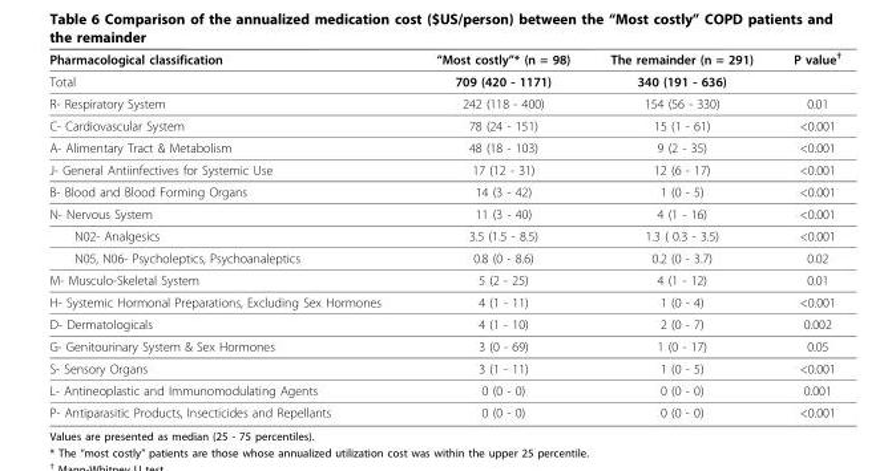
<table><thead><tr><td>Pharmacological classification</td><td>“Most costly”* (n = 98)</td><td>The remainder (n = 291)</td><td>P value<sup>†</sup></td></tr></thead><tbody><tr><td>Total</td><td>709 (420 - 1171)</td><td>340 (191 - 636)</td><td></td></tr><tr><td>R- Respiratory System</td><td>242 (118 - 400)</td><td>154 (56 - 330)</td><td>0.01</td></tr><tr><td>C- Cardiovascular System</td><td>78 (24 - 151)</td><td>15 (1 - 61)</td><td>&lt;0.001</td></tr><tr><td>A- Alimentary Tract &amp; Metabolism</td><td>48 (18 - 103)</td><td>9 (2 - 35)</td><td>&lt;0.001</td></tr><tr><td>J- General Antiinfectives for Systemic Use</td><td>17 (12 - 31)</td><td>12 (6 - 17)</td><td>&lt;0.001</td></tr><tr><td>B- Blood and Blood Forming Organs</td><td>14 (3 - 42)</td><td>1 (0 - 5)</td><td>&lt;0.001</td></tr><tr><td>N- Nervous System</td><td>11 (3 - 40)</td><td>4 (1 - 16)</td><td>&lt;0.001</td></tr><tr><td>N02- Analgesics</td><td>3.5 (1.5 - 8.5)</td><td>1.3 ( 0.3 - 3.5)</td><td>&lt;0.001</td></tr><tr><td>N05, N06- Psycholeptics, Psychoanaleptics</td><td>0.8 (0 - 8.6)</td><td>0.2 (0 - 3.7)</td><td>0.02</td></tr><tr><td>M- Musculo-Skeletal System</td><td>5 (2 - 25)</td><td>4 (1 - 12)</td><td>0.01</td></tr><tr><td>H- Systemic Hormonal Preparations, Excluding Sex Hormones</td><td>4 (1 - 11)</td><td>1 (0 - 4)</td><td>&lt;0.001</td></tr><tr><td>D- Dermatologicals</td><td>4 (1 - 10)</td><td>2 (0 - 7)</td><td>0.002</td></tr><tr><td>G- Genitourinary System &amp; Sex Hormones</td><td>3 (0 - 69)</td><td>1 (0 - 17)</td><td>0.05</td></tr><tr><td>S- Sensory Organs</td><td>3 (1 - 11)</td><td>1 (0 - 5)</td><td>&lt;0.001</td></tr><tr><td>L- Antineoplastic and Immunomodulating Agents</td><td>0 (0 - 0)</td><td>0 (0 - 0)</td><td>0.001</td></tr><tr><td>P- Antiparasitic Products, Insecticides and Repellants</td><td>0 (0 - 0)</td><td>0 (0 - 0)</td><td>&lt;0.001</td></tr></tbody></table>